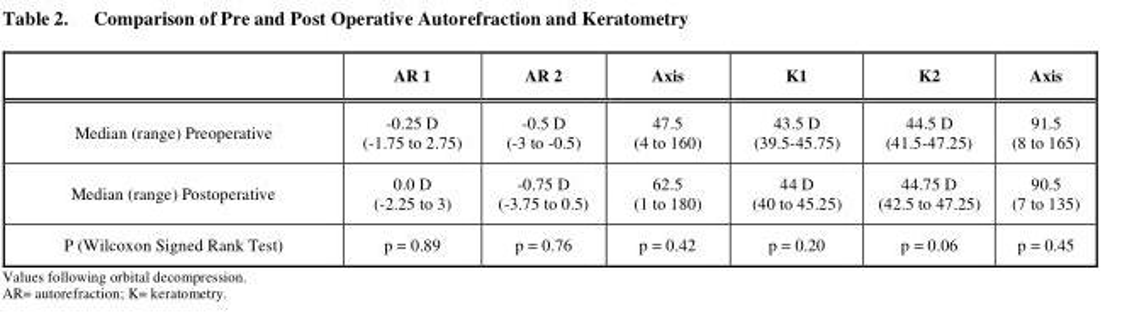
<table><thead><tr><td></td><td>AR 1</td><td>AR 2</td><td>Axis</td><td>K1</td><td>K2</td><td>Axis</td></tr></thead><tbody><tr><td>Median (range) Preoperative</td><td>-0.25 D (-1.75 to 2.75)</td><td>-0.5 D (-3 to -0.5)</td><td>47.5 (4 to 160)</td><td>43.5 D (39.5-45.75)</td><td>44.5 D (41.5-47.25)</td><td>91.5 (8 to 165)</td></tr><tr><td>Median (range) Postoperative</td><td>0.0 D (-2.25 to 3)</td><td>-0.75 D (-3.75 to 0.5)</td><td>62.5 (1 to 180)</td><td>44 D (40 to 45.25)</td><td>44.75 D (42.5 to 47.25)</td><td>90.5 (7 to 135)</td></tr><tr><td>P (Wilcoxon Signed Rank Test)</td><td>p = 0.89</td><td>p = 0.76</td><td>p = 0.42</td><td>p = 0.20</td><td>p = 0.06</td><td>p = 0.45</td></tr></tbody></table>